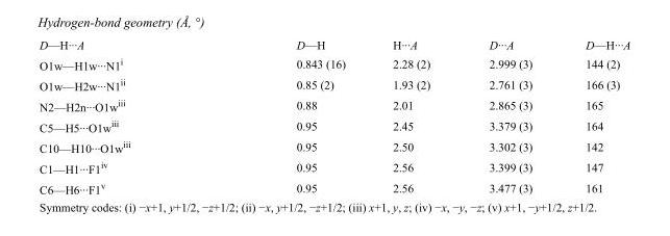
<table><tbody><tr><td>D—H···A</td><td>D—H</td><td>H···A</td><td>D···A</td><td>D—H···A</td></tr><tr><td>O1w—H1w···N1<sup>i</sup></td><td>0.843 (16)</td><td>2.28 (2)</td><td>2.999 (3)</td><td>144 (2)</td></tr><tr><td>O1w—H2w···N1<sup>ii</sup></td><td>0.85 (2)</td><td>1.93 (2)</td><td>2.761 (3)</td><td>166 (3)</td></tr><tr><td>N2—H2n···O1w<sup>iii</sup></td><td>0.88</td><td>2.01</td><td>2.865 (3)</td><td>165</td></tr><tr><td>C5—H5···O1w<sup>iii</sup></td><td>0.95</td><td>2.45</td><td>3.379 (3)</td><td>164</td></tr><tr><td>C10—H10···O1w<sup>iii</sup></td><td>0.95</td><td>2.50</td><td>3.302 (3)</td><td>142</td></tr><tr><td>C1—H1···F1<sup>iv</sup></td><td>0.95</td><td>2.56</td><td>3.399 (3)</td><td>147</td></tr><tr><td>C6—H6···F1<sup>v</sup></td><td>0.95</td><td>2.56</td><td>3.477 (3)</td><td>161</td></tr></tbody></table>